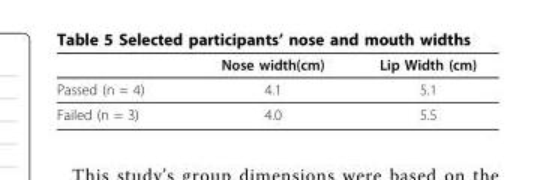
<table><thead><tr><td></td><td>Nose width(cm)</td><td>Lip Width (cm)</td></tr></thead><tbody><tr><td>Passed (n = 4)</td><td>4.1</td><td>5.1</td></tr><tr><td>Failed (n = 3)</td><td>4.0</td><td>5.5</td></tr></tbody></table>